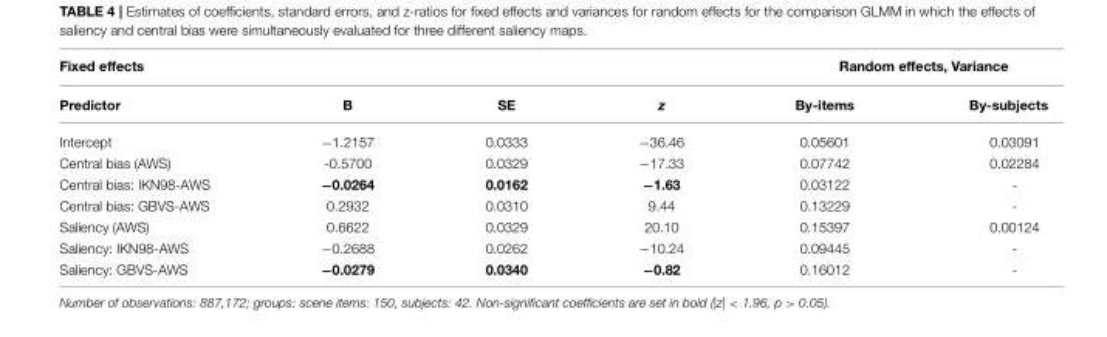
<table><thead><tr><td rowspan="2">Fixed effects Predictor</td><td rowspan="2">B</td><td rowspan="2">SE</td><td rowspan="2">z</td><td colspan="2">Random effects, Variance</td></tr><tr><td>By-items</td><td>By-subjects</td></tr></thead><tbody><tr><td>Intercept</td><td>−1.2157</td><td>0.0333</td><td>−36.46</td><td>0.05601</td><td>0.03091</td></tr><tr><td>Central bias (AWS)</td><td>-0.5700</td><td>0.0329</td><td>−17.33</td><td>0.07742</td><td>0.02284</td></tr><tr><td>Central bias: IKN98-AWS</td><td>−0.0264</td><td>0.0162</td><td>−1.63</td><td>0.03122</td><td>-</td></tr><tr><td>Central bias: GBVS-AWS</td><td>0.2932</td><td>0.0310</td><td>9.44</td><td>0.13229</td><td>-</td></tr><tr><td>Saliency (AWS)</td><td>0.6622</td><td>0.0329</td><td>20.10</td><td>0.15397</td><td>0.00124</td></tr><tr><td>Saliency: IKN98-AWS</td><td>−0.2688</td><td>0.0262</td><td>−10.24</td><td>0.09445</td><td>-</td></tr><tr><td>Saliency: GBVS-AWS</td><td>−0.0279</td><td>0.0340</td><td>−0.82</td><td>0.16012</td><td>-</td></tr></tbody></table>